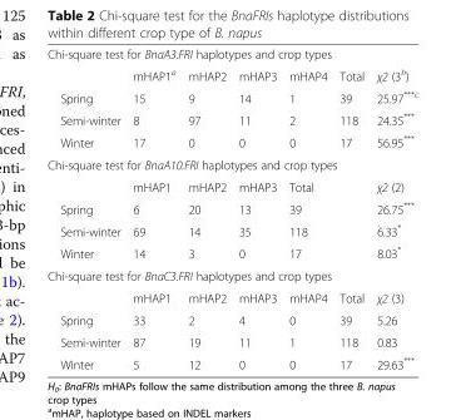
<table><tbody><tr><td colspan="7">Chi-square test for BnaA3.FRI haplotypes and crop types</td></tr><tr><td></td><td>mHAP1<sup>a</sup></td><td>mHAP2</td><td>mHAP3</td><td>mHAP4</td><td>Total</td><td>χ2 (3<sup>b</sup>)</td></tr><tr><td>Spring</td><td>15</td><td>9</td><td>14</td><td>1</td><td>39</td><td>25.97<sup>***c</sup></td></tr><tr><td>Semi-winter</td><td>8</td><td>97</td><td>11</td><td>2</td><td>118</td><td>24.35***</td></tr><tr><td>Winter</td><td>17</td><td>0</td><td>0</td><td>0</td><td>17</td><td>56.95***</td></tr><tr><td colspan="7">Chi-square test for BnaA10.FRI haplotypes and crop types</td></tr><tr><td></td><td>mHAP1</td><td>mHAP2</td><td>mHAP3</td><td colspan="2">Total</td><td>χ2 (2)</td></tr><tr><td>Spring</td><td>6</td><td>20</td><td>13</td><td colspan="2">39</td><td>26.75***</td></tr><tr><td>Semi-winter</td><td>69</td><td>14</td><td>35</td><td colspan="2">118</td><td>6.33*</td></tr><tr><td>Winter</td><td>14</td><td>3</td><td>0</td><td colspan="2">17</td><td>8.03*</td></tr><tr><td colspan="7">Chi-square test for BnaC3.FRI haplotypes and crop types</td></tr><tr><td></td><td>mHAP1</td><td>mHAP2</td><td>mHAP3</td><td>mHAP4</td><td>Total</td><td>χ2 (3)</td></tr><tr><td>Spring</td><td>33</td><td>2</td><td>4</td><td>0</td><td>39</td><td>5.26</td></tr><tr><td>Semi-winter</td><td>87</td><td>19</td><td>11</td><td>1</td><td>118</td><td>0.83</td></tr><tr><td>Winter</td><td>5</td><td>12</td><td>0</td><td>0</td><td>17</td><td>29.63***</td></tr></tbody></table>